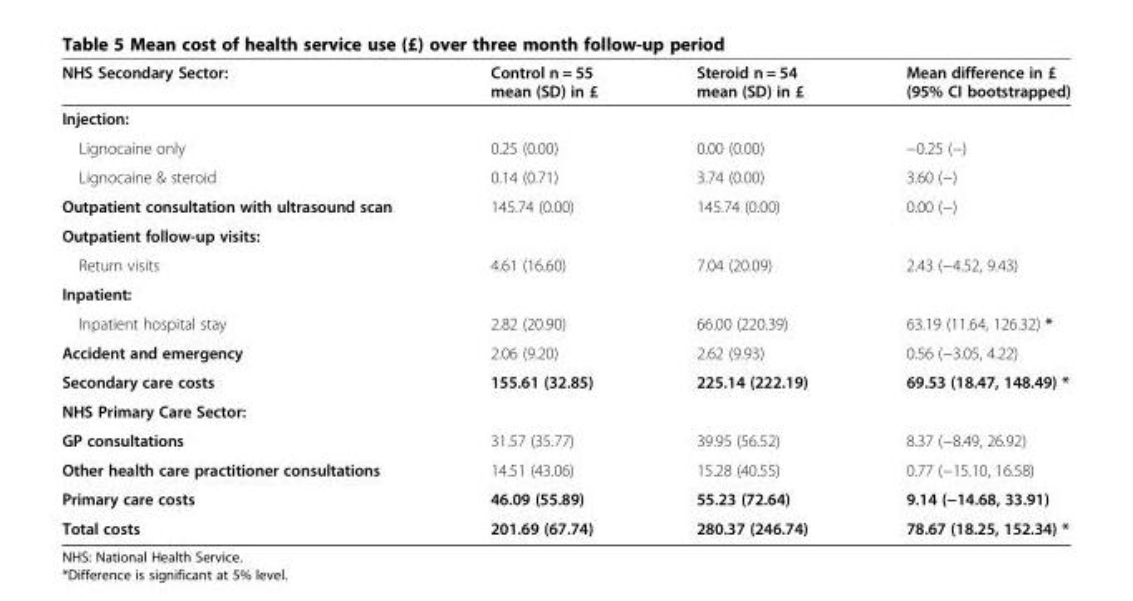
<table><thead><tr><td>NHS Secondary Sector:</td><td>Control n = 55 mean (SD) in £</td><td>Steroid n = 54 mean (SD) in £</td><td>Mean difference in £ (95% CI bootstrapped)</td></tr></thead><tbody><tr><td colspan="4">Injection:</td></tr><tr><td>Lignocaine only</td><td>0.25 (0.00)</td><td>0.00 (0.00)</td><td>−0.25 (−)</td></tr><tr><td>Lignocaine &amp; steroid</td><td>0.14 (0.71)</td><td>3.74 (0.00)</td><td>3.60 (−)</td></tr><tr><td>Outpatient consultation with ultrasound scan</td><td>145.74 (0.00)</td><td>145.74 (0.00)</td><td>0.00 (−)</td></tr><tr><td colspan="4">Outpatient follow-up visits:</td></tr><tr><td>Return visits</td><td>4.61 (16.60)</td><td>7.04 (20.09)</td><td>2.43 (−4.52, 9.43)</td></tr><tr><td colspan="4">Inpatient:</td></tr><tr><td>Inpatient hospital stay</td><td>2.82 (20.90)</td><td>66.00 (220.39)</td><td>63.19 (11.64, 126.32) *</td></tr><tr><td>Accident and emergency</td><td>2.06 (9.20)</td><td>2.62 (9.93)</td><td>0.56 (−3.05, 4.22)</td></tr><tr><td>Secondary care costs</td><td>155.61 (32.85)</td><td>225.14 (222.19)</td><td>69.53 (18.47, 148.49) *</td></tr><tr><td colspan="4">NHS Primary Care Sector:</td></tr><tr><td>GP consultations</td><td>31.57 (35.77)</td><td>39.95 (56.52)</td><td>8.37 (−8.49, 26.92)</td></tr><tr><td>Other health care practitioner consultations</td><td>14.51 (43.06)</td><td>15.28 (40.55)</td><td>0.77 (−15.10, 16.58)</td></tr><tr><td>Primary care costs</td><td>46.09 (55.89)</td><td>55.23 (72.64)</td><td>9.14 (−14.68, 33.91)</td></tr><tr><td>Total costs</td><td>201.69 (67.74)</td><td>280.37 (246.74)</td><td>78.67 (18.25, 152.34) *</td></tr></tbody></table>